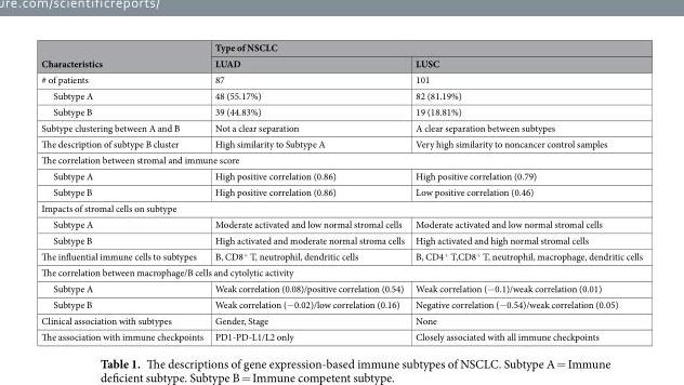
<table><thead><tr><td rowspan="2">Characteristics</td><td colspan="2">Type of NSCLC</td></tr><tr><td>LUAD</td><td>LUSC</td></tr></thead><tbody><tr><td># of patients</td><td>87</td><td>101</td></tr><tr><td>Subtype A</td><td>48 (55.17%)</td><td>82 (81.19%)</td></tr><tr><td>Subtype B</td><td>39 (44.83%)</td><td>19 (18.81%)</td></tr><tr><td>Subtype clustering between A and B</td><td>Not a clear separation</td><td>A clear separation between subtypes</td></tr><tr><td>The description of subtype B cluster</td><td>High similarity to Subtype A</td><td>Very high similarity to noncancer control samples</td></tr><tr><td colspan="3">The correlation between stromal and immune score</td></tr><tr><td>Subtype A</td><td>High positive correlation (0.86)</td><td>High positive correlation (0.79)</td></tr><tr><td>Subtype B</td><td>High positive correlation (0.86)</td><td>Low positive correlation (0.46)</td></tr><tr><td colspan="3">Impacts of stromal cells on subtype</td></tr><tr><td>Subtype A</td><td>Moderate activated and low normal stromal cells</td><td>Moderate activated and low normal stromal cells</td></tr><tr><td>Subtype B</td><td>High activated and moderate normal stroma cells</td><td>High activated and high normal stromal cells</td></tr><tr><td>The influential immune cells to subtypes</td><td>B, CD8<sup>+</sup> T, neutrophil, dendritic cells</td><td>B, CD4<sup>+</sup> T,CD8<sup>+</sup> T, neutrophil, macrophage, dendritic cells</td></tr><tr><td colspan="3">The correlation between macrophage/B cells and cytolytic activity</td></tr><tr><td>Subtype A</td><td>Weak correlation (0.08)/positive correlation (0.54)</td><td>Weak correlation (−0.1)/weak correlation (0.01)</td></tr><tr><td>Subtype B</td><td>Weak correlation (−0.02)/low correlation (0.16)</td><td>Negative correlation (−0.54)/weak correlation (0.05)</td></tr><tr><td>Clinical association with subtypes</td><td>Gender, Stage</td><td>None</td></tr><tr><td>The association with immune checkpoints</td><td>PD1-PD-L1/L2 only</td><td>Closely associated with all immune checkpoints</td></tr></tbody></table>